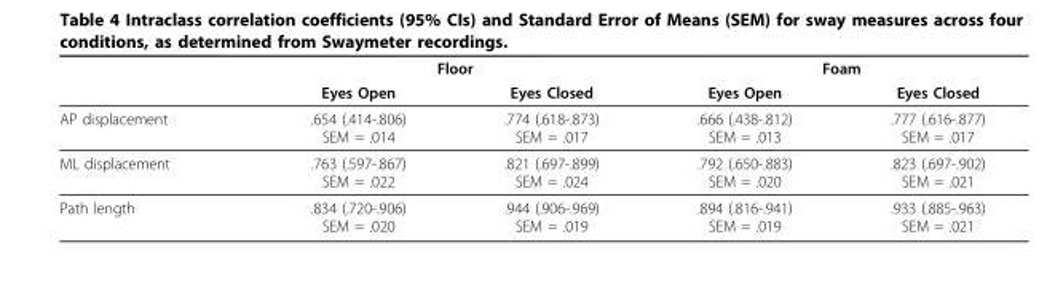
<table><thead><tr><td rowspan="2"></td><td colspan="2">Floor</td><td colspan="2">Foam</td></tr><tr><td>Eyes Open</td><td>Eyes Closed</td><td>Eyes Open</td><td>Eyes Closed</td></tr></thead><tbody><tr><td>AP displacement</td><td>.654 (.414-.806) SEM = .014</td><td>.774 (.618-.873) SEM = .017</td><td>.666 (.438-.812) SEM = .013</td><td>.777 (.616-.877) SEM = .017</td></tr><tr><td>ML displacement</td><td>.763 (.597-.867) SEM = .022</td><td>.821 (.697-.899) SEM = .024</td><td>.792 (.650-.883) SEM = .020</td><td>.823 (.697-.902) SEM = .021</td></tr><tr><td>Path length</td><td>.834 (.720-.906) SEM = .020</td><td>.944 (.906-.969) SEM = .019</td><td>.894 (.816-.941) SEM = .019</td><td>.933 (.885-.963) SEM = .021</td></tr></tbody></table>